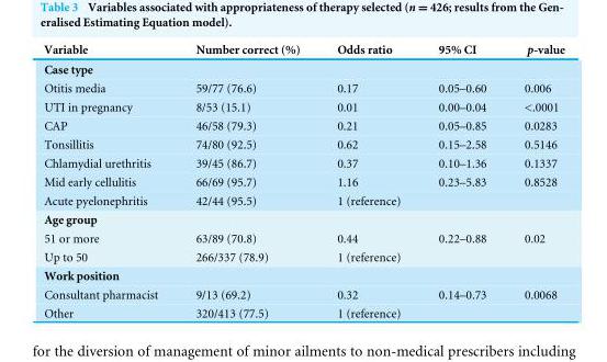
<table><thead><tr><td>Variable</td><td>Number correct (%)</td><td>Odds ratio</td><td>95% CI</td><td>p-value</td></tr></thead><tbody><tr><td colspan="5">;Case type</td></tr><tr><td>;Otitis media</td><td>59/77 (76.6)</td><td>0.17</td><td>0.05–0.60</td><td>0.006</td></tr><tr><td>;UTI in pregnancy</td><td>8/53 (15.1)</td><td>0.01</td><td>0.00–0.04</td><td>&lt;.0001</td></tr><tr><td>;CAP</td><td>46/58 (79.3)</td><td>0.21</td><td>0.05–0.85</td><td>0.0283</td></tr><tr><td>;Tonsillitis</td><td>74/80 (92.5)</td><td>0.62</td><td>0.15–2.58</td><td>0.5146</td></tr><tr><td>;Chlamydial urethritis</td><td>39/45 (86.7)</td><td>0.37</td><td>0.10–1.36</td><td>0.1337</td></tr><tr><td>;Mid early cellulitis</td><td>66/69 (95.7)</td><td>1.16</td><td>0.23–5.83</td><td>0.8528</td></tr><tr><td>;Acute pyelonephritis</td><td>42/44 (95.5)</td><td>1 (reference)</td><td></td><td></td></tr><tr><td colspan="5">;Age group</td></tr><tr><td>;51 or more</td><td>63/89 (70.8)</td><td>0.44</td><td>0.22–0.88</td><td>0.02</td></tr><tr><td>;Up to 50</td><td>266/337 (78.9)</td><td>1 (reference)</td><td></td><td></td></tr><tr><td colspan="5">;Work position</td></tr><tr><td>;Consultant pharmacist</td><td>9/13 (69.2)</td><td>0.32</td><td>0.14–0.73</td><td>0.0068</td></tr><tr><td>;Other</td><td>320/413 (77.5)</td><td>1 (reference)</td><td></td><td></td></tr></tbody></table>